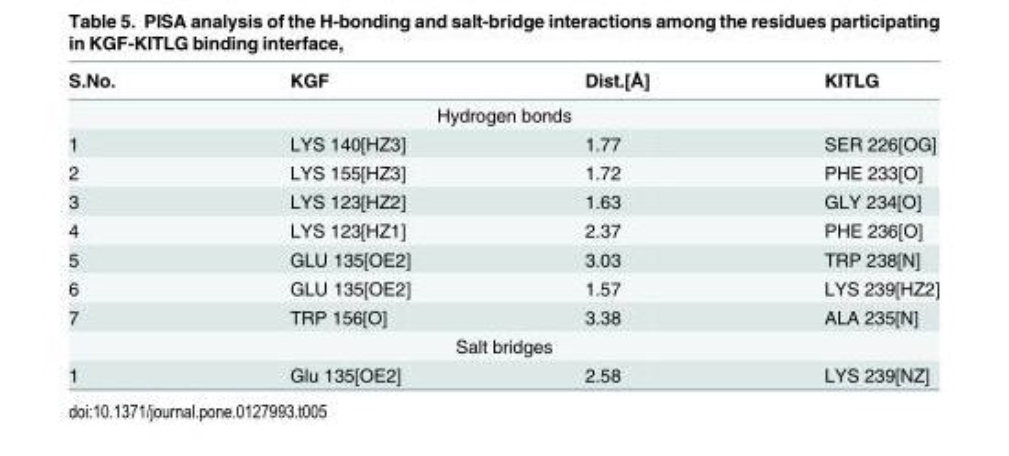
<table><thead><tr><td>S.No.</td><td>KGF</td><td>Dist.[Å]</td><td>KITLG</td></tr></thead><tbody><tr><td colspan="4">Hydrogen bonds</td></tr><tr><td>1</td><td>LYS 140[HZ3]</td><td>1.77</td><td>SER 226[OG]</td></tr><tr><td>2</td><td>LYS 155[HZ3]</td><td>1.72</td><td>PHE 233[O]</td></tr><tr><td>3</td><td>LYS 123[HZ2]</td><td>1.63</td><td>GLY 234[O]</td></tr><tr><td>4</td><td>LYS 123[HZ1]</td><td>2.37</td><td>PHE 236[O]</td></tr><tr><td>5</td><td>GLU 135[OE2]</td><td>3.03</td><td>TRP 238[N]</td></tr><tr><td>6</td><td>GLU 135[OE2]</td><td>1.57</td><td>LYS 239[HZ2]</td></tr><tr><td>7</td><td>TRP 156[O]</td><td>3.38</td><td>ALA 235[N]</td></tr><tr><td colspan="4">Salt bridges</td></tr><tr><td>1</td><td>Glu 135[OE2]</td><td>2.58</td><td>LYS 239[NZ]</td></tr></tbody></table>